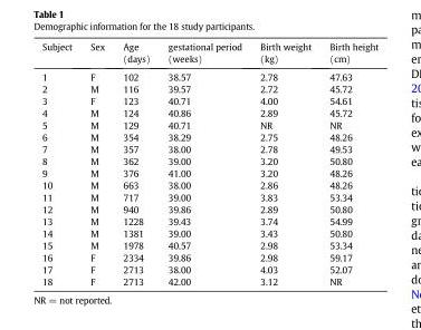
<table><thead><tr><td>Subject</td><td>Sex</td><td>Age (days)</td><td>gestational period (weeks)</td><td>Birth weight (kg)</td><td>Birth height (cm)</td></tr></thead><tbody><tr><td>1</td><td>F</td><td>102</td><td>38.57</td><td>2.78</td><td>47.63</td></tr><tr><td>2</td><td>M</td><td>116</td><td>39.57</td><td>2.72</td><td>45.72</td></tr><tr><td>3</td><td>F</td><td>123</td><td>40.71</td><td>4.00</td><td>54.61</td></tr><tr><td>4</td><td>M</td><td>124</td><td>40.86</td><td>2.89</td><td>45.72</td></tr><tr><td>5</td><td>M</td><td>129</td><td>40.71</td><td>NR</td><td>NR</td></tr><tr><td>6</td><td>M</td><td>354</td><td>38.29</td><td>2.75</td><td>48.26</td></tr><tr><td>7</td><td>M</td><td>357</td><td>38.00</td><td>2.78</td><td>49.53</td></tr><tr><td>8</td><td>M</td><td>362</td><td>39.00</td><td>3.20</td><td>50.80</td></tr><tr><td>9</td><td>M</td><td>376</td><td>41.00</td><td>3.20</td><td>48.26</td></tr><tr><td>10</td><td>M</td><td>663</td><td>38.00</td><td>2.86</td><td>48.26</td></tr><tr><td>11</td><td>M</td><td>717</td><td>39.00</td><td>3.83</td><td>53.34</td></tr><tr><td>12</td><td>M</td><td>940</td><td>39.86</td><td>2.89</td><td>50.80</td></tr><tr><td>13</td><td>M</td><td>1228</td><td>39.43</td><td>3.74</td><td>54.99</td></tr><tr><td>14</td><td>M</td><td>1381</td><td>39.00</td><td>3.43</td><td>50.80</td></tr><tr><td>15</td><td>M</td><td>1978</td><td>40.57</td><td>2.98</td><td>53.34</td></tr><tr><td>16</td><td>F</td><td>2334</td><td>39.86</td><td>2.98</td><td>59.17</td></tr><tr><td>17</td><td>F</td><td>2713</td><td>38.00</td><td>4.03</td><td>52.07</td></tr><tr><td>18</td><td>F</td><td>2713</td><td>42.00</td><td>3.12</td><td>NR</td></tr></tbody></table>